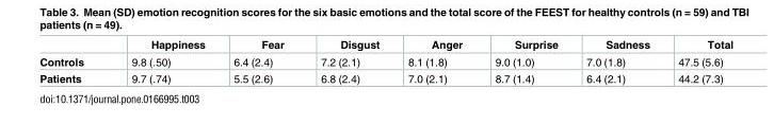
<table><thead><tr><td></td><td>Happiness</td><td>Fear</td><td>Disgust</td><td>Anger</td><td>Surprise</td><td>Sadness</td><td>Total</td></tr></thead><tbody><tr><td>Controls</td><td>9.8 (.50)</td><td>6.4 (2.4)</td><td>7.2 (2.1)</td><td>8.1 (1.8)</td><td>9.0 (1.0)</td><td>7.0 (1.8)</td><td>47.5 (5.6)</td></tr><tr><td>Patients</td><td>9.7 (.74)</td><td>5.5 (2.6)</td><td>6.8 (2.4)</td><td>7.0 (2.1)</td><td>8.7 (1.4)</td><td>6.4 (2.1)</td><td>44.2 (7.3)</td></tr></tbody></table>